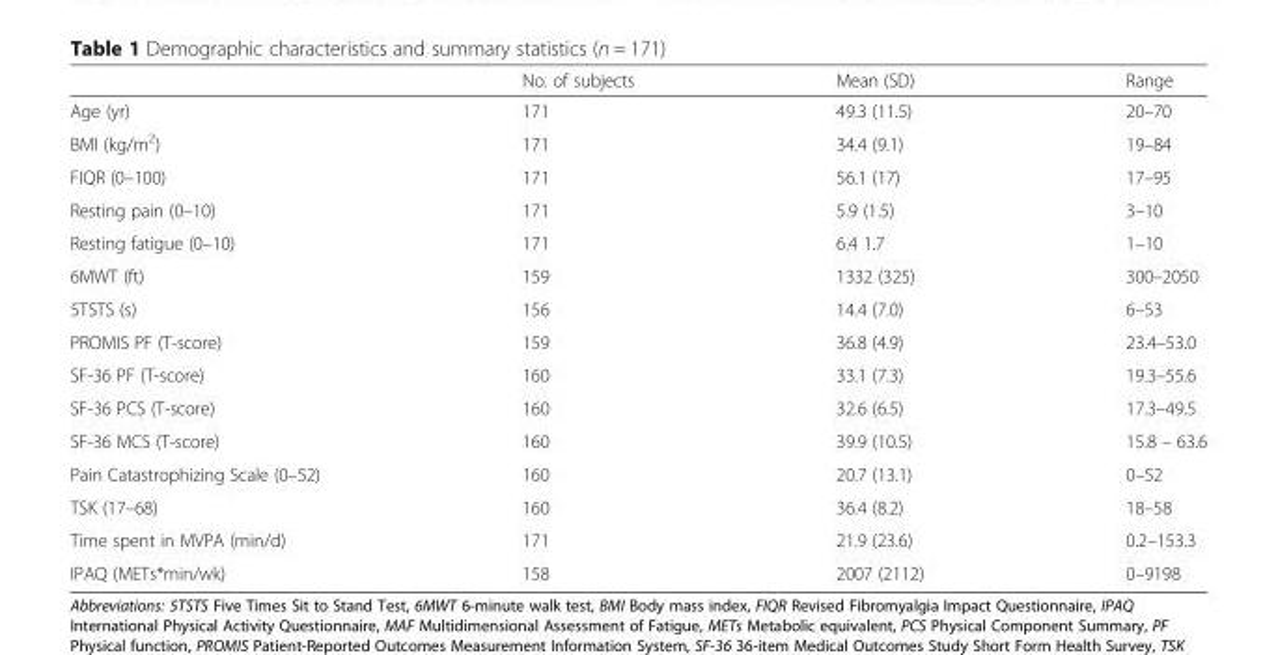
<table><thead><tr><td></td><td>No. of subjects</td><td>Mean (SD)</td><td>Range</td></tr></thead><tbody><tr><td>Age (yr)</td><td>171</td><td>49.3 (11.5)</td><td>20–70</td></tr><tr><td>BMI (kg/m<sup>2</sup>)</td><td>171</td><td>34.4 (9.1)</td><td>19–84</td></tr><tr><td>FIQR (0–100)</td><td>171</td><td>56.1 (17)</td><td>17–95</td></tr><tr><td>Resting pain (0–10)</td><td>171</td><td>5.9 (1.5)</td><td>3–10</td></tr><tr><td>Resting fatigue (0–10)</td><td>171</td><td>6.4 1.7</td><td>1–10</td></tr><tr><td>6MWT (ft)</td><td>159</td><td>1332 (325)</td><td>300–2050</td></tr><tr><td>5TSTS (s)</td><td>156</td><td>14.4 (7.0)</td><td>6–53</td></tr><tr><td>PROMIS PF (T-score)</td><td>159</td><td>36.8 (4.9)</td><td>23.4–53.0</td></tr><tr><td>SF-36 PF (T-score)</td><td>160</td><td>33.1 (7.3)</td><td>19.3–55.6</td></tr><tr><td>SF-36 PCS (T-score)</td><td>160</td><td>32.6 (6.5)</td><td>17.3–49.5</td></tr><tr><td>SF-36 MCS (T-score)</td><td>160</td><td>39.9 (10.5)</td><td>15.8 – 63.6</td></tr><tr><td>Pain Catastrophizing Scale (0–52)</td><td>160</td><td>20.7 (13.1)</td><td>0–52</td></tr><tr><td>TSK (17–68)</td><td>160</td><td>36.4 (8.2)</td><td>18–58</td></tr><tr><td>Time spent in MVPA (min/d)</td><td>171</td><td>21.9 (23.6)</td><td>0.2–153.3</td></tr><tr><td>IPAQ (METs*min/wk)</td><td>158</td><td>2007 (2112)</td><td>0–9198</td></tr></tbody></table>